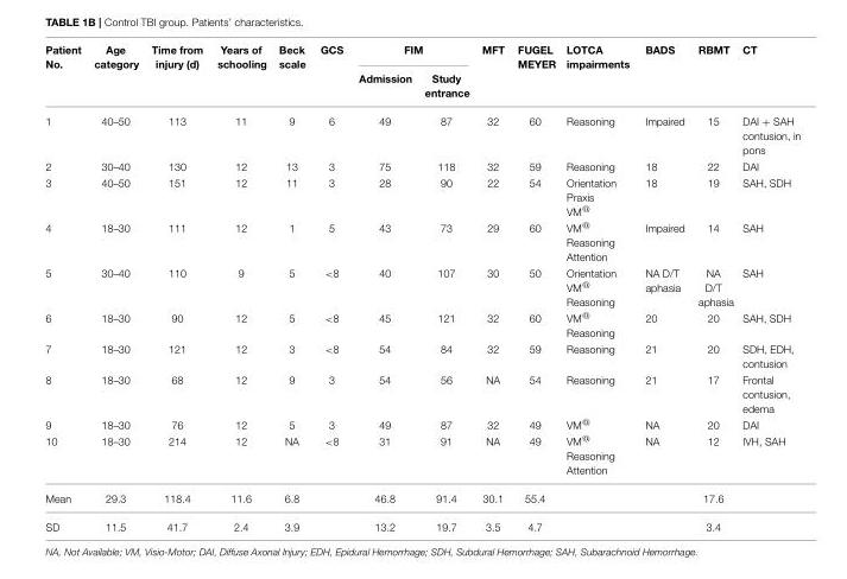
<table><thead><tr><td rowspan="2">Patient No.</td><td rowspan="2">Age category</td><td rowspan="2">Time from injury (d)</td><td rowspan="2">Years of schooling</td><td rowspan="2">Beck scale</td><td rowspan="2">GCS</td><td colspan="2">FIM</td><td rowspan="2">MFT</td><td rowspan="2">FUGEL MEYER</td><td rowspan="2">LOTCA impairments</td><td rowspan="2">BADS</td><td rowspan="2">RBMT</td><td rowspan="2">CT</td></tr><tr><td>Admission</td><td>Study entrance</td></tr></thead><tbody><tr><td>1</td><td>40–50</td><td>113</td><td>11</td><td>9</td><td>6</td><td>49</td><td>87</td><td>32</td><td>60</td><td>Reasoning</td><td>Impaired</td><td>15</td><td>DAI + SAH contusion, in pons</td></tr><tr><td>2</td><td>30–40</td><td>130</td><td>12</td><td>13</td><td>3</td><td>75</td><td>118</td><td>32</td><td>59</td><td>Reasoning</td><td>18</td><td>22</td><td>DAI</td></tr><tr><td>3</td><td>40–50</td><td>151</td><td>12</td><td>11</td><td>3</td><td>28</td><td>90</td><td>22</td><td>54</td><td>Orientation Praxis VM<sup>@</sup></td><td>18</td><td>19</td><td>SAH, SDH</td></tr><tr><td>4</td><td>18–30</td><td>111</td><td>12</td><td>1</td><td>5</td><td>43</td><td>73</td><td>29</td><td>60</td><td>VM<sup>@</sup> Reasoning Attention</td><td>Impaired</td><td>14</td><td>SAH</td></tr><tr><td>5</td><td>30–40</td><td>110</td><td>9</td><td>5</td><td>&lt;8</td><td>40</td><td>107</td><td>30</td><td>50</td><td>Orientation VM<sup>@</sup> Reasoning</td><td>NA D/T aphasia</td><td>NA D/T aphasia</td><td>SAH</td></tr><tr><td>6</td><td>18–30</td><td>90</td><td>12</td><td>5</td><td>&lt;8</td><td>45</td><td>121</td><td>32</td><td>60</td><td>VM<sup>@</sup> Reasoning</td><td>20</td><td>20</td><td>SAH, SDH</td></tr><tr><td>7</td><td>18–30</td><td>121</td><td>12</td><td>3</td><td>&lt;8</td><td>54</td><td>84</td><td>32</td><td>59</td><td>Reasoning</td><td>21</td><td>20</td><td>SDH, EDH, contusion</td></tr><tr><td>8</td><td>18–30</td><td>68</td><td>12</td><td>9</td><td>3</td><td>54</td><td>56</td><td>NA</td><td>54</td><td>Reasoning</td><td>21</td><td>17</td><td>Frontal contusion, edema</td></tr><tr><td>9</td><td>18–30</td><td>76</td><td>12</td><td>5</td><td>3</td><td>49</td><td>87</td><td>32</td><td>49</td><td>VM<sup>@</sup></td><td>NA</td><td>20</td><td>DAI</td></tr><tr><td>10</td><td>18–30</td><td>214</td><td>12</td><td>NA</td><td>&lt;8</td><td>31</td><td>91</td><td>NA</td><td>49</td><td>VM<sup>@</sup> Reasoning Attention</td><td>NA</td><td>12</td><td>IVH, SAH</td></tr><tr><td>Mean</td><td>29.3</td><td>118.4</td><td>11.6</td><td>6.8</td><td></td><td>46.8</td><td>91.4</td><td>30.1</td><td>55.4</td><td></td><td></td><td>17.6</td><td></td></tr><tr><td>SD</td><td>11.5</td><td>41.7</td><td>2.4</td><td>3.9</td><td></td><td>13.2</td><td>19.7</td><td>3.5</td><td>4.7</td><td></td><td></td><td>3.4</td><td></td></tr></tbody></table>